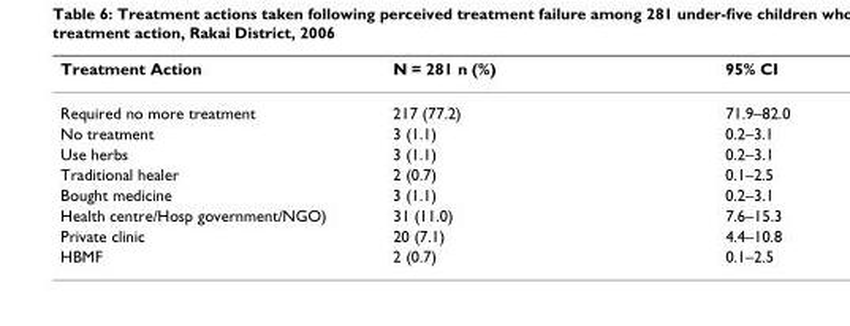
<table><thead><tr><td>Treatment Action</td><td>N = 281 n (%)</td><td>95% CI</td></tr></thead><tbody><tr><td>Required no more treatment</td><td>217 (77.2)</td><td>71.9–82.0</td></tr><tr><td>No treatment</td><td>3 (1.1)</td><td>0.2–3.1</td></tr><tr><td>Use herbs</td><td>3 (1.1)</td><td>0.2–3.1</td></tr><tr><td>Traditional healer</td><td>2 (0.7)</td><td>0.1–2.5</td></tr><tr><td>Bought medicine</td><td>3 (1.1)</td><td>0.2–3.1</td></tr><tr><td>Health centre/Hosp government/NGO)</td><td>31 (11.0)</td><td>7.6–15.3</td></tr><tr><td>Private clinic</td><td>20 (7.1)</td><td>4.4–10.8</td></tr><tr><td>HBMF</td><td>2 (0.7)</td><td>0.1–2.5</td></tr></tbody></table>